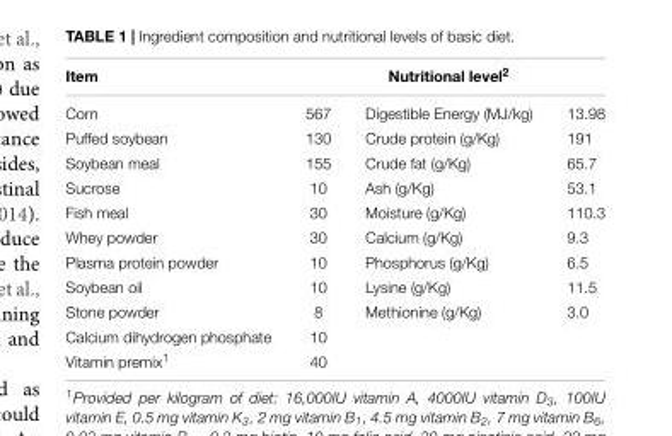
<table><thead><tr><td>Item</td><td></td><td>Nutritional level<sup>2</sup></td><td></td></tr></thead><tbody><tr><td>Corn</td><td>567</td><td>Digestible Energy (MJ/kg)</td><td>13.98</td></tr><tr><td>Puffed soybean</td><td>130</td><td>Crude protein (g/Kg)</td><td>191</td></tr><tr><td>Soybean meal</td><td>155</td><td>Crude fat (g/Kg)</td><td>65.7</td></tr><tr><td>Sucrose</td><td>10</td><td>Ash (g/Kg)</td><td>53.1</td></tr><tr><td>Fish meal</td><td>30</td><td>Moisture (g/Kg)</td><td>110.3</td></tr><tr><td>Whey powder</td><td>30</td><td>Calcium (g/Kg)</td><td>9.3</td></tr><tr><td>Plasma protein powder</td><td>10</td><td>Phosphorus (g/Kg)</td><td>6.5</td></tr><tr><td>Soybean oil</td><td>10</td><td>Lysine (g/Kg)</td><td>11.5</td></tr><tr><td>Stone powder</td><td>8</td><td>Methionine (g/Kg)</td><td>3.0</td></tr><tr><td>Calcium dihydrogen phosphate</td><td>10</td><td></td><td></td></tr><tr><td>Vitamin premix<sup>1</sup></td><td>40</td><td></td><td></td></tr></tbody></table>